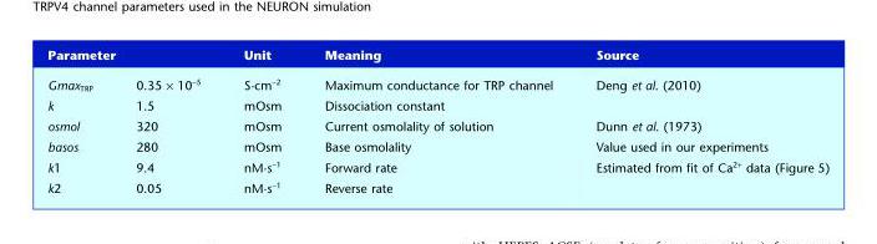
<table><thead><tr><td colspan="2">Parameter</td><td rowspan="2">Unit S·cm<sup>−2</sup></td><td rowspan="2">Meaning Maximum conductance for TRP channel</td><td rowspan="2">Source Deng et al. (2010)</td></tr><tr><td>Gmax<sub>TRP</sub></td><td>0.35 × 10<sup>−5</sup></td></tr></thead><tbody><tr><td>k</td><td>1.5</td><td>mOsm</td><td>Dissociation constant</td><td></td></tr><tr><td>osmol</td><td>320</td><td>mOsm</td><td>Current osmolality of solution</td><td>Dunn et al. (1973)</td></tr><tr><td>basos</td><td>280</td><td>mOsm</td><td>Base osmolality</td><td>Value used in our experiments</td></tr><tr><td>k1</td><td>9.4</td><td>nM·s<sup>−1</sup></td><td>Forward rate</td><td rowspan="2">Estimated from fit of Ca<sup>2+</sup> data (Figure 5)</td></tr><tr><td>k2</td><td>0.05</td><td>nM·s<sup>−1</sup></td><td>Reverse rate</td></tr></tbody></table>